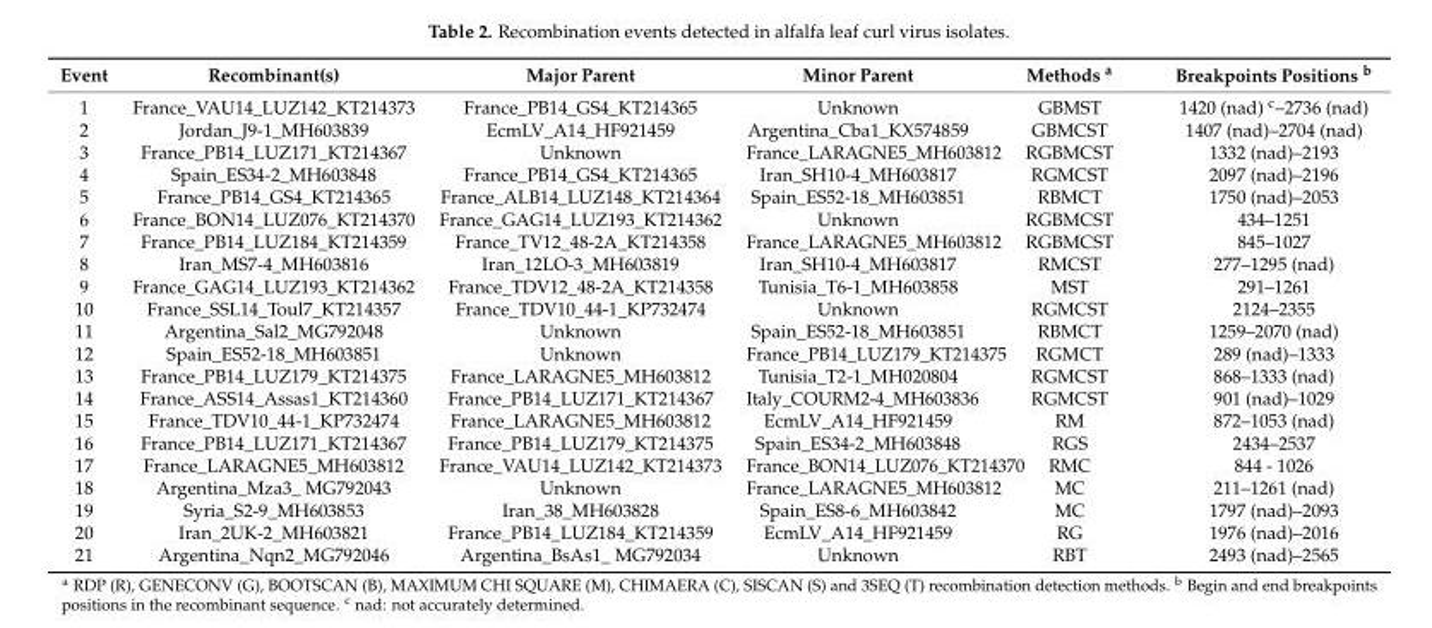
<table><thead><tr><td>Event</td><td>Recombinant(s)</td><td>Major Parent</td><td>Minor Parent</td><td>Methods <sup>a</sup></td><td>Breakpoints Positions <sup>b</sup></td></tr></thead><tbody><tr><td>1</td><td>France_VAU14_LUZ142_KT214373</td><td>France_PB14_GS4_KT214365</td><td>Unknown</td><td>GBMST</td><td>1420 (nad) <sup>c</sup>–2736 (nad)</td></tr><tr><td>2</td><td>Jordan_J9-1_MH603839</td><td>EcmLV_A14_HF921459</td><td>Argentina_Cba1_KX574859</td><td>GBMCST</td><td>1407 (nad)–2704 (nad)</td></tr><tr><td>3</td><td>France_PB14_LUZ171_KT214367</td><td>Unknown</td><td>France_LARAGNE5_MH603812</td><td>RGBMCST</td><td>1332 (nad)–2193</td></tr><tr><td>4</td><td>Spain_ES34-2_MH603848</td><td>France_PB14_GS4_KT214365</td><td>Iran_SH10-4_MH603817</td><td>RGMCST</td><td>2097 (nad)–2196</td></tr><tr><td>5</td><td>France_PB14_GS4_KT214365</td><td>France_ALB14_LUZ148_KT214364</td><td>Spain_ES52-18_MH603851</td><td>RBMCT</td><td>1750 (nad)–2053</td></tr><tr><td>6</td><td>France_BON14_LUZ076_KT214370</td><td>France_GAG14_LUZ193_KT214362</td><td>Unknown</td><td>RGBMCST</td><td>434–1251</td></tr><tr><td>7</td><td>France_PB14_LUZ184_KT214359</td><td>France_TV12_48-2A_KT214358</td><td>France_LARAGNE5_MH603812</td><td>RGBMCST</td><td>845–1027</td></tr><tr><td>8</td><td>Iran_MS7-4_MH603816</td><td>Iran_12LO-3_MH603819</td><td>Iran_SH10-4_MH603817</td><td>RMCST</td><td>277–1295 (nad)</td></tr><tr><td>9</td><td>France_GAG14_LUZ193_KT214362</td><td>France_TDV12_48-2A_KT214358</td><td>Tunisia_T6-1_MH603858</td><td>MST</td><td>291–1261</td></tr><tr><td>10</td><td>France_SSL14_Toul7_KT214357</td><td>France_TDV10_44-1_KP732474</td><td>Unknown</td><td>RGMCST</td><td>2124–2355</td></tr><tr><td>11</td><td>Argentina_Sal2_MG792048</td><td>Unknown</td><td>Spain_ES52-18_MH603851</td><td>RBMCT</td><td>1259–2070 (nad)</td></tr><tr><td>12</td><td>Spain_ES52-18_MH603851</td><td>Unknown</td><td>France_PB14_LUZ179_KT214375</td><td>RGMCT</td><td>289 (nad)–1333</td></tr><tr><td>13</td><td>France_PB14_LUZ179_KT214375</td><td>France_LARAGNE5_MH603812</td><td>Tunisia_T2-1_MH020804</td><td>RGMCST</td><td>868–1333 (nad)</td></tr><tr><td>14</td><td>France_ASS14_Assas1_KT214360</td><td>France_PB14_LUZ171_KT214367</td><td>Italy_COURM2-4_MH603836</td><td>RGMCST</td><td>901 (nad)–1029</td></tr><tr><td>15</td><td>France_TDV10_44-1_KP732474</td><td>France_LARAGNE5_MH603812</td><td>EcmLV_A14_HF921459</td><td>RM</td><td>872–1053 (nad)</td></tr><tr><td>16</td><td>France_PB14_LUZ171_KT214367</td><td>France_PB14_LUZ179_KT214375</td><td>Spain_ES34-2_MH603848</td><td>RGS</td><td>2434–2537</td></tr><tr><td>17</td><td>France_LARAGNE5_MH603812</td><td>France_VAU14_LUZ142_KT214373</td><td>France_BON14_LUZ076_KT214370</td><td>RMC</td><td>844 - 1026</td></tr><tr><td>18</td><td>Argentina_Mza3_ MG792043</td><td>Unknown</td><td>France_LARAGNE5_MH603812</td><td>MC</td><td>211–1261 (nad)</td></tr><tr><td>19</td><td>Syria_S2-9_MH603853</td><td>Iran_38_MH603828</td><td>Spain_ES8-6_MH603842</td><td>MC</td><td>1797 (nad)–2093</td></tr><tr><td>20</td><td>Iran_2UK-2_MH603821</td><td>France_PB14_LUZ184_KT214359</td><td>EcmLV_A14_HF921459</td><td>RG</td><td>1976 (nad)–2016</td></tr><tr><td>21</td><td>Argentina_Nqn2_MG792046</td><td>Argentina_BsAs1_ MG792034</td><td>Unknown</td><td>RBT</td><td>2493 (nad)–2565</td></tr></tbody></table>